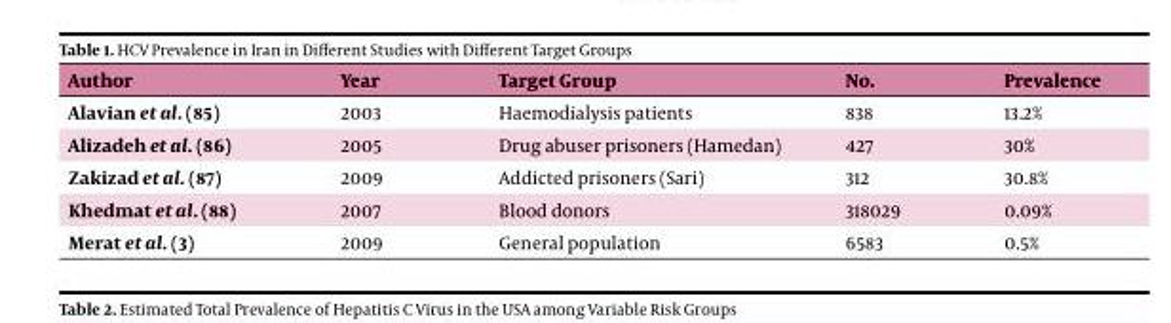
<table><thead><tr><td>Author</td><td>Year</td><td>Target Group</td><td>No.</td><td>Prevalence</td></tr></thead><tbody><tr><td>Alavian et al. (85)</td><td>2003</td><td>Haemodialysis patients</td><td>838</td><td>13.2%</td></tr><tr><td>Alizadeh et al. (86)</td><td>2005</td><td>Drug abuser prisoners (Hamedan)</td><td>427</td><td>30%</td></tr><tr><td>Zakizad et al. (87)</td><td>2009</td><td>Addicted prisoners (Sari)</td><td>312</td><td>30.8%</td></tr><tr><td>Khedmat et al. (88)</td><td>2007</td><td>Blood donors</td><td>318029</td><td>0.09%</td></tr><tr><td>Merat et al. (3)</td><td>2009</td><td>General population</td><td>6583</td><td>0.5%</td></tr></tbody></table>